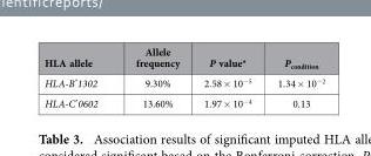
<table><thead><tr><td>HLA allele</td><td>Allele frequency</td><td>P value*</td><td>P<sub>condition</sub></td></tr></thead><tbody><tr><td>HLA-B*1302</td><td>9.30%</td><td>2.58 × 10<sup>−5</sup></td><td>1.34 × 10<sup>−2</sup></td></tr><tr><td>HLA-C*0602</td><td>13.60%</td><td>1.97 × 10<sup>−4</sup></td><td>0.13</td></tr></tbody></table>